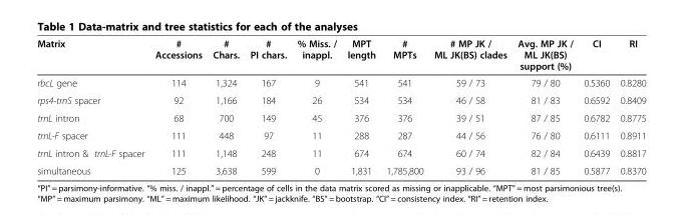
<table><thead><tr><td>Matrix</td><td># Accessions</td><td># Chars.</td><td># PI chars.</td><td>% Miss. / inappl.</td><td>MPT length</td><td># MPTs</td><td># MP JK / ML JK(BS) clades</td><td>Avg. MP JK / ML JK(BS) support (%)</td><td>CI</td><td>RI</td></tr></thead><tbody><tr><td>rbcL gene</td><td>114</td><td>1,324</td><td>167</td><td>9</td><td>541</td><td>541</td><td>59 / 73</td><td>79 / 80</td><td>0.5360</td><td>0.8280</td></tr><tr><td>rps4-trnS spacer</td><td>92</td><td>1,166</td><td>184</td><td>26</td><td>534</td><td>534</td><td>46 / 58</td><td>81 / 83</td><td>0.6592</td><td>0.8409</td></tr><tr><td>trnL intron</td><td>68</td><td>700</td><td>149</td><td>45</td><td>376</td><td>376</td><td>39 / 51</td><td>87 / 85</td><td>0.6782</td><td>0.8775</td></tr><tr><td>trnL-F spacer</td><td>111</td><td>448</td><td>97</td><td>11</td><td>288</td><td>287</td><td>44 / 56</td><td>76 / 80</td><td>0.6111</td><td>0.8911</td></tr><tr><td>trnL intron &amp; trnL-F spacer</td><td>111</td><td>1,148</td><td>248</td><td>11</td><td>674</td><td>674</td><td>60 / 74</td><td>82 / 84</td><td>0.6439</td><td>0.8817</td></tr><tr><td>simultaneous</td><td>125</td><td>3,638</td><td>599</td><td>0</td><td>1,831</td><td>1,785,800</td><td>93 / 96</td><td>81 / 85</td><td>0.5877</td><td>0.8370</td></tr></tbody></table>